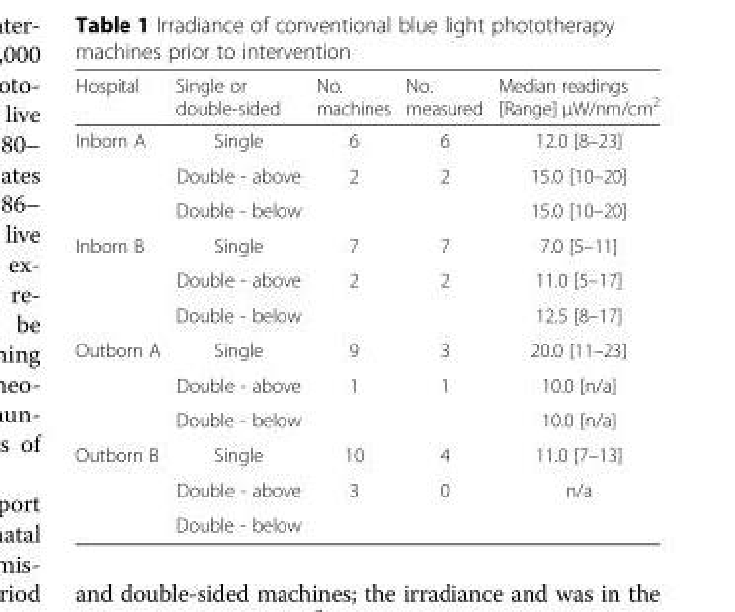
<table><thead><tr><td>Hospital</td><td>Single or double-sided</td><td>No. machines</td><td>No. measured</td><td>Median readings [Range] µW/nm/cm<sup>2</sup></td></tr></thead><tbody><tr><td rowspan="3">Inborn A</td><td>Single</td><td>6</td><td>6</td><td>12.0 [8–23]</td></tr><tr><td>Double - above</td><td>2</td><td>2</td><td>15.0 [10–20]</td></tr><tr><td>Double - below</td><td></td><td></td><td>15.0 [10–20]</td></tr><tr><td rowspan="3">Inborn B</td><td>Single</td><td>7</td><td>7</td><td>7.0 [5–11]</td></tr><tr><td>Double - above</td><td>2</td><td>2</td><td>11.0 [5–17]</td></tr><tr><td>Double - below</td><td></td><td></td><td>12.5 [8–17]</td></tr><tr><td rowspan="3">Outborn A</td><td>Single</td><td>9</td><td>3</td><td>20.0 [11–23]</td></tr><tr><td>Double - above</td><td>1</td><td>1</td><td>10.0 [n/a]</td></tr><tr><td>Double - below</td><td></td><td></td><td>10.0 [n/a]</td></tr><tr><td rowspan="3">Outborn B</td><td>Single</td><td>10</td><td>4</td><td>11.0 [7–13]</td></tr><tr><td>Double - above</td><td>3</td><td>0</td><td>n/a</td></tr><tr><td>Double - below</td><td></td><td></td><td></td></tr></tbody></table>